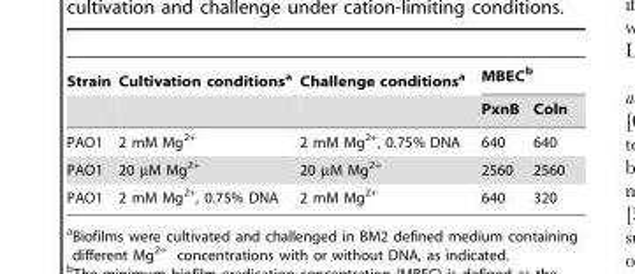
<table><thead><tr><td rowspan="2">Strain</td><td rowspan="2">Cultivation conditions<sup>a</sup></td><td rowspan="2">Challenge conditions<sup>a</sup></td><td colspan="2">MBEC<sup>b</sup></td></tr><tr><td>PxnB</td><td>Coln</td></tr></thead><tbody><tr><td>PAO1</td><td>2 mM Mg<sup>2+</sup></td><td>2 mM Mg<sup>2+</sup>, 0.75% DNA</td><td>640</td><td>640</td></tr><tr><td>PAO1</td><td>20 µM Mg<sup>2+</sup></td><td>20 µM Mg<sup>2+</sup></td><td>2560</td><td>2560</td></tr><tr><td>PAO1</td><td>2 mM Mg<sup>2+</sup>, 0.75% DNA</td><td>2 mM Mg<sup>2+</sup></td><td>640</td><td>320</td></tr></tbody></table>